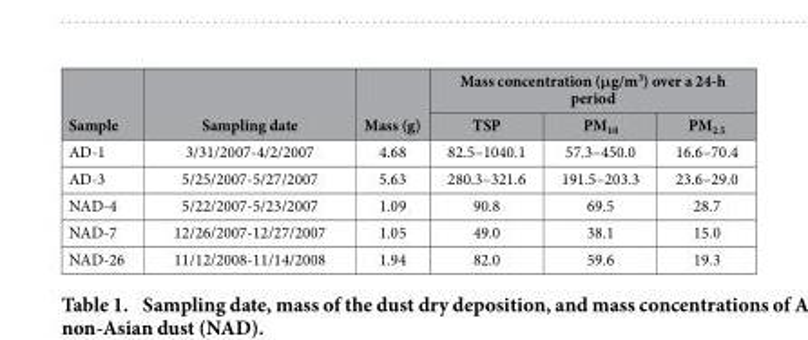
<table><thead><tr><td rowspan="2">Sample</td><td rowspan="2">Sampling date</td><td rowspan="2">Mass (g)</td><td colspan="3">Mass concentration (μg/m<sup>3</sup>) over a 24-h period</td></tr><tr><td>TSP</td><td>PM<sub>10</sub></td><td>PM<sub>2.5</sub></td></tr></thead><tbody><tr><td>AD-1</td><td>3/31/2007-4/2/2007</td><td>4.68</td><td>82.5–1040.1</td><td>57.3–450.0</td><td>16.6–70.4</td></tr><tr><td>AD-3</td><td>5/25/2007-5/27/2007</td><td>5.63</td><td>280.3–321.6</td><td>191.5–203.3</td><td>23.6–29.0</td></tr><tr><td>NAD-4</td><td>5/22/2007-5/23/2007</td><td>1.09</td><td>90.8</td><td>69.5</td><td>28.7</td></tr><tr><td>NAD-7</td><td>12/26/2007-12/27/2007</td><td>1.05</td><td>49.0</td><td>38.1</td><td>15.0</td></tr><tr><td>NAD-26</td><td>11/12/2008-11/14/2008</td><td>1.94</td><td>82.0</td><td>59.6</td><td>19.3</td></tr></tbody></table>